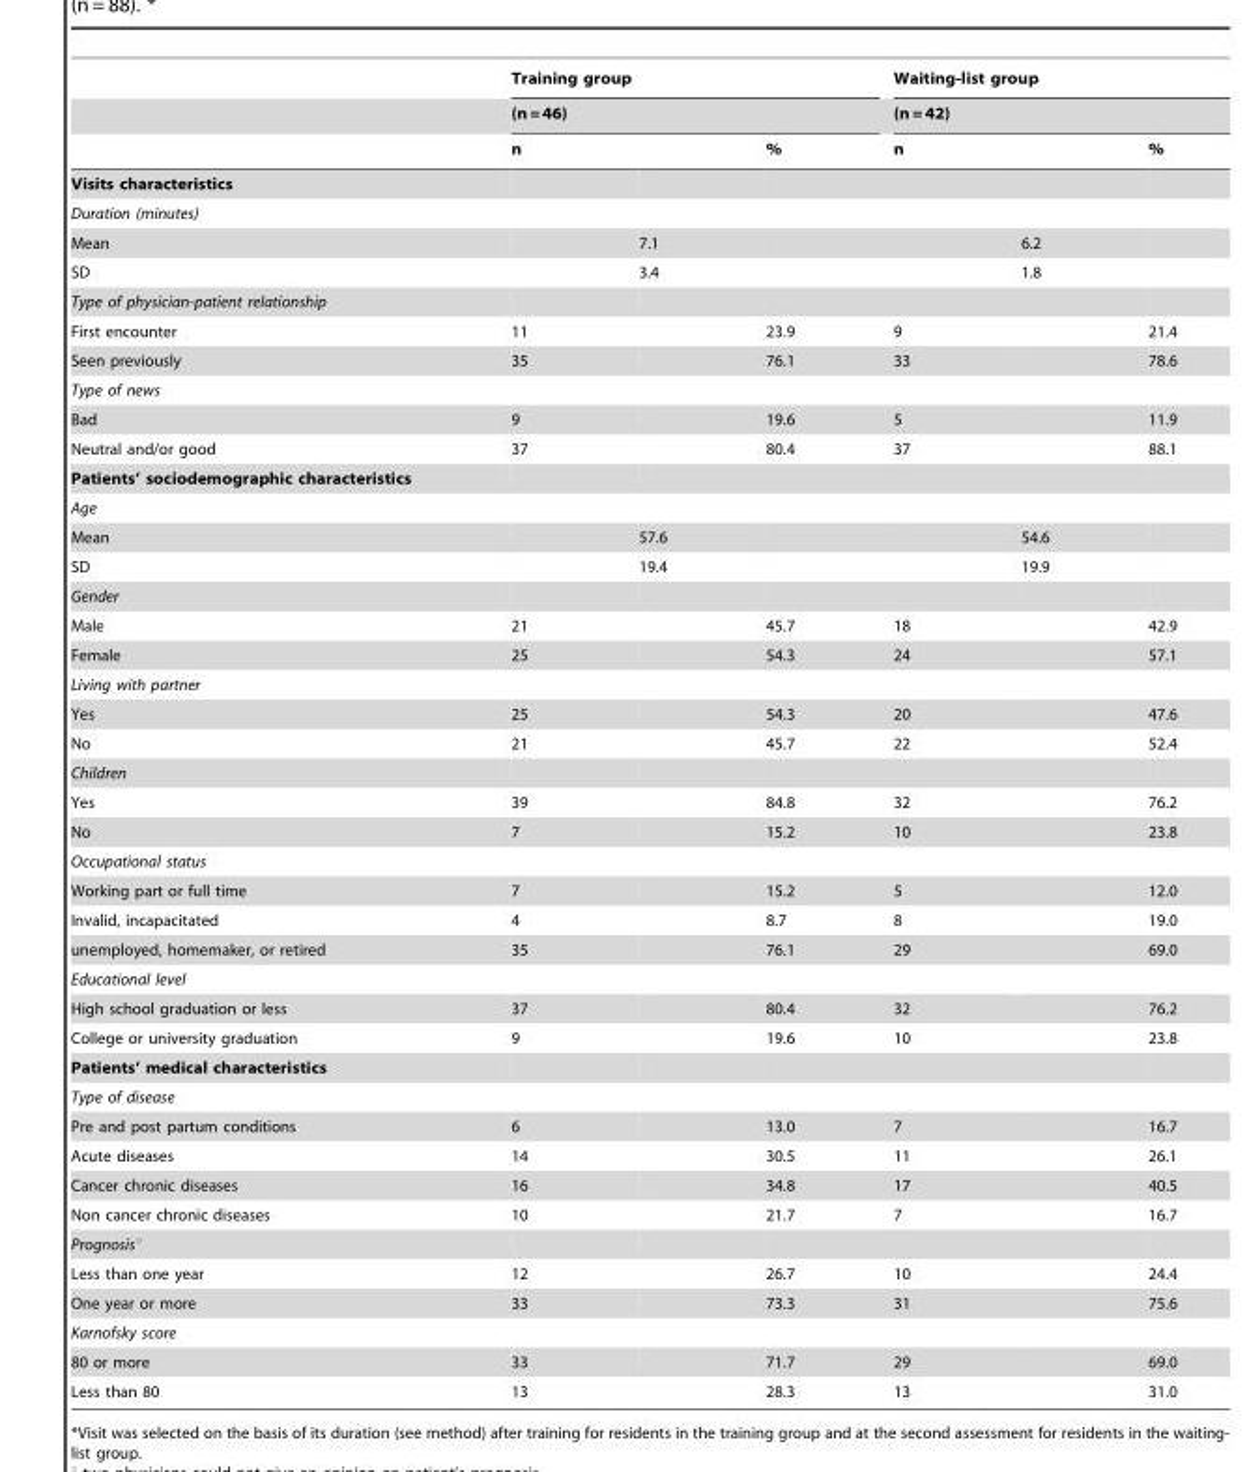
<table><thead><tr><td rowspan="3"></td><td rowspan="2" colspan="3">Training group (n = 46)</td><td rowspan="2" colspan="3">Waiting-list group (n = 42)</td></tr><tr></tr><tr><td>n</td><td></td><td>%</td><td>n</td><td></td><td>%</td></tr></thead><tbody><tr><td colspan="7">Visits characteristics</td></tr><tr><td colspan="7">Duration (minutes)</td></tr><tr><td>Mean</td><td></td><td>7.1</td><td></td><td></td><td>6.2</td><td></td></tr><tr><td>SD</td><td></td><td>3.4</td><td></td><td></td><td>1.8</td><td></td></tr><tr><td colspan="7">Type of physician-patient relationship</td></tr><tr><td>First encounter</td><td>11</td><td></td><td>23.9</td><td>9</td><td></td><td>21.4</td></tr><tr><td>Seen previously</td><td>35</td><td></td><td>76.1</td><td>33</td><td></td><td>78.6</td></tr><tr><td colspan="7">Type of news</td></tr><tr><td>Bad</td><td>9</td><td></td><td>19.6</td><td>5</td><td></td><td>11.9</td></tr><tr><td>Neutral and/or good</td><td>37</td><td></td><td>80.4</td><td>37</td><td></td><td>88.1</td></tr><tr><td colspan="7">Patients’ sociodemographic characteristics</td></tr><tr><td colspan="7">Age</td></tr><tr><td>Mean</td><td></td><td>57.6</td><td></td><td></td><td>54.6</td><td></td></tr><tr><td>SD</td><td></td><td>19.4</td><td></td><td></td><td>19.9</td><td></td></tr><tr><td colspan="7">Gender</td></tr><tr><td>Male</td><td>21</td><td></td><td>45.7</td><td>18</td><td></td><td>42.9</td></tr><tr><td>Female</td><td>25</td><td></td><td>54.3</td><td>24</td><td></td><td>57.1</td></tr><tr><td colspan="7">Living with partner</td></tr><tr><td>Yes</td><td>25</td><td></td><td>54.3</td><td>20</td><td></td><td>47.6</td></tr><tr><td>No</td><td>21</td><td></td><td>45.7</td><td>22</td><td></td><td>52.4</td></tr><tr><td colspan="7">Children</td></tr><tr><td>Yes</td><td>39</td><td></td><td>84.8</td><td>32</td><td></td><td>76.2</td></tr><tr><td>No</td><td>7</td><td></td><td>15.2</td><td>10</td><td></td><td>23.8</td></tr><tr><td colspan="7">Occupational status</td></tr><tr><td>Working part or full time</td><td>7</td><td></td><td>15.2</td><td>5</td><td></td><td>12.0</td></tr><tr><td>Invalid, incapacitated</td><td>4</td><td></td><td>8.7</td><td>8</td><td></td><td>19.0</td></tr><tr><td>unemployed, homemaker, or retired</td><td>35</td><td></td><td>76.1</td><td>29</td><td></td><td>69.0</td></tr><tr><td colspan="7">Educational level</td></tr><tr><td>High school graduation or less</td><td>37</td><td></td><td>80.4</td><td>32</td><td></td><td>76.2</td></tr><tr><td>College or university graduation</td><td>9</td><td></td><td>19.6</td><td>10</td><td></td><td>23.8</td></tr><tr><td colspan="7">Patients’ medical characteristics</td></tr><tr><td colspan="7">Type of disease</td></tr><tr><td>Pre and post partum conditions</td><td>6</td><td></td><td>13.0</td><td>7</td><td></td><td>16.7</td></tr><tr><td>Acute diseases</td><td>14</td><td></td><td>30.5</td><td>11</td><td></td><td>26.1</td></tr><tr><td>Cancer chronic diseases</td><td>16</td><td></td><td>34.8</td><td>17</td><td></td><td>40.5</td></tr><tr><td>Non cancer chronic diseases</td><td>10</td><td></td><td>21.7</td><td>7</td><td></td><td>16.7</td></tr><tr><td colspan="7">Prognosis°</td></tr><tr><td>Less than one year</td><td>12</td><td></td><td>26.7</td><td>10</td><td></td><td>24.4</td></tr><tr><td>One year or more</td><td>33</td><td></td><td>73.3</td><td>31</td><td></td><td>75.6</td></tr><tr><td colspan="7">Karnofsky score</td></tr><tr><td>80 or more</td><td>33</td><td></td><td>71.7</td><td>29</td><td></td><td>69.0</td></tr><tr><td>Less than 80</td><td>13</td><td></td><td>28.3</td><td>13</td><td></td><td>31.0</td></tr></tbody></table>